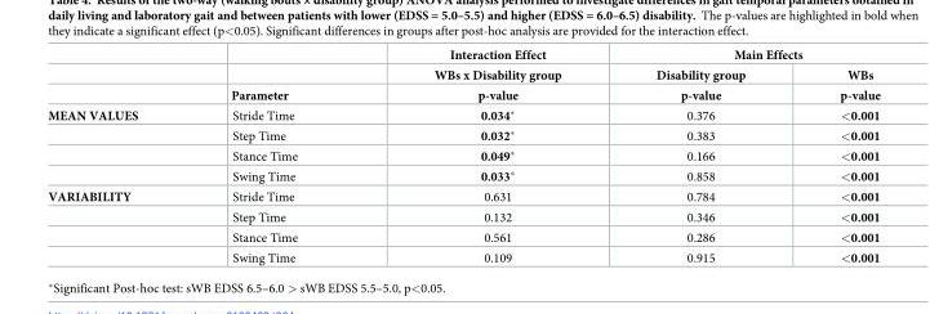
<table><thead><tr><td rowspan="3"></td><td rowspan="3">Parameter</td><td rowspan="3">Interaction Effect WBs x Disability group p-value</td><td colspan="2">Main Effects</td></tr><tr><td rowspan="2">Disability group p-value</td><td rowspan="2">WBs p-value</td></tr><tr></tr></thead><tbody><tr><td rowspan="4">MEAN VALUES</td><td>Stride Time</td><td>0.034*</td><td>0.376</td><td>&lt;0.001</td></tr><tr><td>Step Time</td><td>0.032*</td><td>0.383</td><td>&lt;0.001</td></tr><tr><td>Stance Time</td><td>0.049*</td><td>0.166</td><td>&lt;0.001</td></tr><tr><td>Swing Time</td><td>0.033*</td><td>0.858</td><td>&lt;0.001</td></tr><tr><td rowspan="4">VARIABILITY</td><td>Stride Time</td><td>0.631</td><td>0.784</td><td>&lt;0.001</td></tr><tr><td>Step Time</td><td>0.132</td><td>0.346</td><td>&lt;0.001</td></tr><tr><td>Stance Time</td><td>0.561</td><td>0.286</td><td>&lt;0.001</td></tr><tr><td>Swing Time</td><td>0.109</td><td>0.915</td><td>&lt;0.001</td></tr></tbody></table>